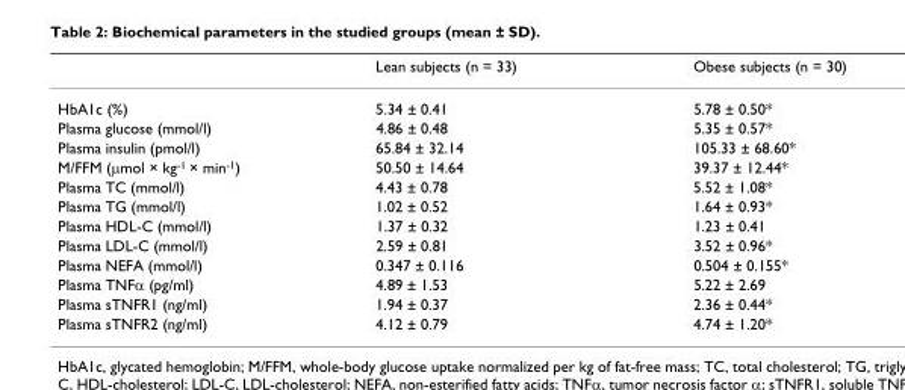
<table><thead><tr><td></td><td>Lean subjects (n = 33)</td><td>Obese subjects (n = 30)</td></tr></thead><tbody><tr><td>HbA1c (%)</td><td>5.34 ± 0.41</td><td>5.78 ± 0.50*</td></tr><tr><td>Plasma glucose (mmol/l)</td><td>4.86 ± 0.48</td><td>5.35 ± 0.57*</td></tr><tr><td>Plasma insulin (pmol/l)</td><td>65.84 ± 32.14</td><td>105.33 ± 68.60*</td></tr><tr><td>M/FFM (µmol × kg<sup>-1</sup> × min<sup>-1</sup>)</td><td>50.50 ± 14.64</td><td>39.37 ± 12.44*</td></tr><tr><td>Plasma TC (mmol/l)</td><td>4.43 ± 0.78</td><td>5.52 ± 1.08*</td></tr><tr><td>Plasma TG (mmol/l)</td><td>1.02 ± 0.52</td><td>1.64 ± 0.93*</td></tr><tr><td>Plasma HDL-C (mmol/l)</td><td>1.37 ± 0.32</td><td>1.23 ± 0.41</td></tr><tr><td>Plasma LDL-C (mmol/l)</td><td>2.59 ± 0.81</td><td>3.52 ± 0.96*</td></tr><tr><td>Plasma NEFA (mmol/l)</td><td>0.347 ± 0.116</td><td>0.504 ± 0.155*</td></tr><tr><td>Plasma TNFα (pg/ml)</td><td>4.89 ± 1.53</td><td>5.22 ± 2.69</td></tr><tr><td>Plasma sTNFR1 (ng/ml)</td><td>1.94 ± 0.37</td><td>2.36 ± 0.44*</td></tr><tr><td>Plasma sTNFR2 (ng/ml)</td><td>4.12 ± 0.79</td><td>4.74 ± 1.20*</td></tr></tbody></table>